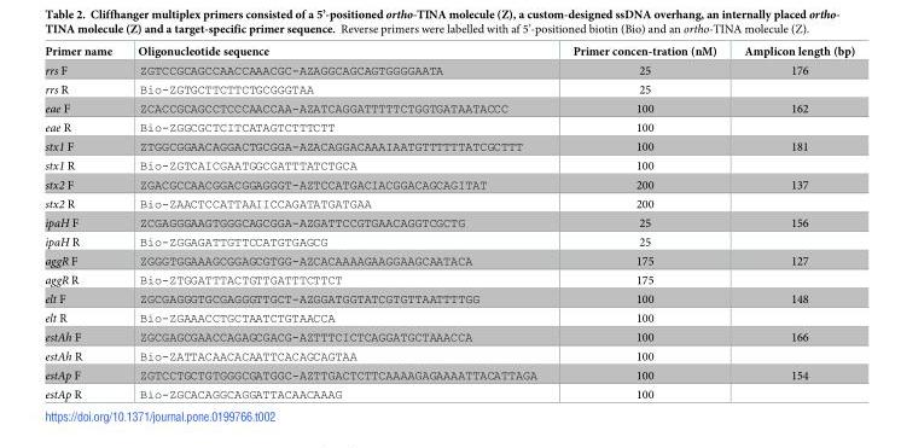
<table><thead><tr><td>Primer name</td><td>Oligonucleotide sequence</td><td>Primer concen-tration (nM)</td><td>Amplicon length (bp)</td></tr></thead><tbody><tr><td>rrs F</td><td>ZGTCCGCAGCCAACCAAACGC-AZAGGCAGCAGTGGGGAATA</td><td>25</td><td>176</td></tr><tr><td>rrs R</td><td>Bio-ZGTGCTTCTTCTGCGGGTAA</td><td>25</td><td></td></tr><tr><td>eae F</td><td>ZCACCGCAGCCTCCCAACCAA-AZATCAGGATTTTTCTGGTGATAATACCC</td><td>100</td><td>162</td></tr><tr><td>eae R</td><td>Bio-ZGGCGCTCITCATAGTCTTTCTT</td><td>100</td><td></td></tr><tr><td>stx1 F</td><td>ZTGGCGGAACAGGACTGCGGA-AZACAGGACAAAIAATGTTTTTTATCGCTTT</td><td>100</td><td>181</td></tr><tr><td>stx1 R</td><td>Bio-ZGTCAICGAATGGCGATTTATCTGCA</td><td>100</td><td></td></tr><tr><td>stx2 F</td><td>ZGACGCCAACGGACGGAGGGT-AZTCCATGACIACGGACAGCAGITAT</td><td>200</td><td>137</td></tr><tr><td>stx2 R</td><td>Bio-ZAACTCCATTAAIICCAGATATGATGAA</td><td>200</td><td></td></tr><tr><td>ipaH F</td><td>ZCGAGGGAAGTGGGCAGCGGA-AZGATTCCGTGAACAGGTCGCTG</td><td>25</td><td>156</td></tr><tr><td>ipaH R</td><td>Bio-ZGGAGATTGTTCCATGTGAGCG</td><td>25</td><td></td></tr><tr><td>aggR F</td><td>ZGGGTGGAAAGCGGAGCGTGG-AZCACAAAAGAAGGAAGCAATACA</td><td>175</td><td>127</td></tr><tr><td>aggR R</td><td>Bio-ZTGGATTTACTGTTGATTTCTTCT</td><td>175</td><td></td></tr><tr><td>elt F</td><td>ZGCGAGGGTGCGAGGGTTGCT-AZGGATGGTATCGTGTTAATTTTGG</td><td>100</td><td>148</td></tr><tr><td>elt R</td><td>Bio-ZGAAACCTGCTAATCTGTAACCA</td><td>100</td><td></td></tr><tr><td>estAh F</td><td>ZGCGAGCGAACCAGAGCGACG-AZTTTCICTCAGGATGCTAAACCA</td><td>100</td><td>166</td></tr><tr><td>estAh R</td><td>Bio-ZATTACAACACAATTCACAGCAGTAA</td><td>100</td><td></td></tr><tr><td>estAp F</td><td>ZGTCCTGCTGTGGGCGATGGC-AZTTGACTCTTCAAAAGAGAAAATTACATTAGA</td><td>100</td><td>154</td></tr><tr><td>estAp R</td><td>Bio-ZGCACAGGCAGGATTACAACAAAG</td><td>100</td><td></td></tr></tbody></table>